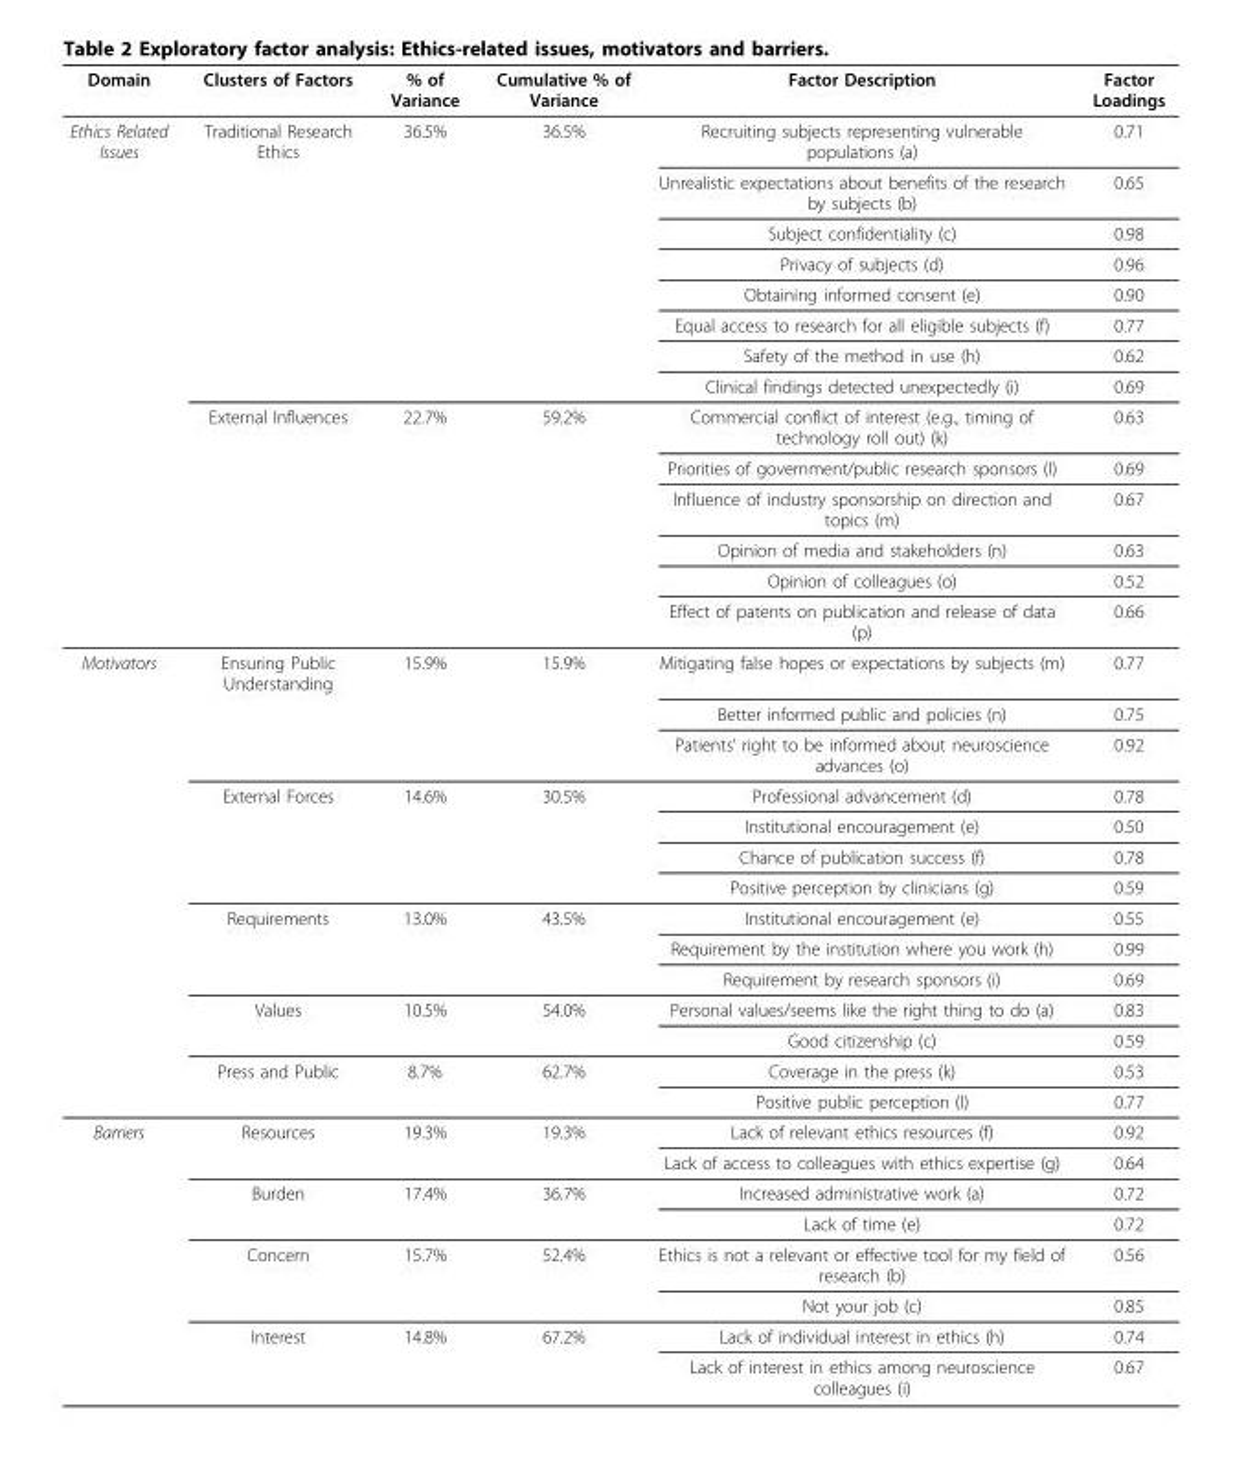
<table><thead><tr><td>Domain</td><td>Clusters of Factors</td><td>% of Variance</td><td>Cumulative % of Variance</td><td>Factor Description</td><td>Factor Loadings</td></tr></thead><tbody><tr><td rowspan="14">Ethics Related Issues</td><td>Traditional Research Ethics</td><td>36.5%</td><td>36.5%</td><td>Recruiting subjects representing vulnerable populations (a)</td><td>0.71</td></tr><tr><td></td><td></td><td></td><td>Unrealistic expectations about benefits of the research by subjects (b)</td><td>0.65</td></tr><tr><td></td><td></td><td></td><td>Subject confidentiality (c)</td><td>0.98</td></tr><tr><td></td><td></td><td></td><td>Privacy of subjects (d)</td><td>0.96</td></tr><tr><td></td><td></td><td></td><td>Obtaining informed consent (e)</td><td>0.90</td></tr><tr><td></td><td></td><td></td><td>Equal access to research for all eligible subjects (f)</td><td>0.77</td></tr><tr><td></td><td></td><td></td><td>Safety of the method in use (h)</td><td>0.62</td></tr><tr><td></td><td></td><td></td><td>Clinical findings detected unexpectedly (i)</td><td>0.69</td></tr><tr><td>External Influences</td><td>22.7%</td><td>59.2%</td><td>Commercial conflict of interest (e.g., timing of technology roll out) (k)</td><td>0.63</td></tr><tr><td></td><td></td><td></td><td>Priorities of government/public research sponsors (l)</td><td>0.69</td></tr><tr><td></td><td></td><td></td><td>Influence of industry sponsorship on direction and topics (m)</td><td>0.67</td></tr><tr><td></td><td></td><td></td><td>Opinion of media and stakeholders (n)</td><td>0.63</td></tr><tr><td></td><td></td><td></td><td>Opinion of colleagues (o)</td><td>0.52</td></tr><tr><td></td><td></td><td></td><td>Effect of patents on publication and release of data (p)</td><td>0.66</td></tr><tr><td rowspan="14">Motivators</td><td>Ensuring Public Understanding</td><td>15.9%</td><td>15.9%</td><td>Mitigating false hopes or expectations by subjects (m)</td><td>0.77</td></tr><tr><td></td><td></td><td></td><td>Better informed public and policies (n)</td><td>0.75</td></tr><tr><td></td><td></td><td></td><td>Patients’ right to be informed about neuroscience advances (o)</td><td>0.92</td></tr><tr><td>External Forces</td><td>14.6%</td><td>30.5%</td><td>Professional advancement (d)</td><td>0.78</td></tr><tr><td></td><td></td><td></td><td>Institutional encouragement (e)</td><td>0.50</td></tr><tr><td></td><td></td><td></td><td>Chance of publication success (f)</td><td>0.78</td></tr><tr><td></td><td></td><td></td><td>Positive perception by clinicians (g)</td><td>0.59</td></tr><tr><td>Requirements</td><td>13.0%</td><td>43.5%</td><td>Institutional encouragement (e)</td><td>0.55</td></tr><tr><td></td><td></td><td></td><td>Requirement by the institution where you work (h)</td><td>0.99</td></tr><tr><td></td><td></td><td></td><td>Requirement by research sponsors (i)</td><td>0.69</td></tr><tr><td>Values</td><td>10.5%</td><td>54.0%</td><td>Personal values/seems like the right thing to do (a)</td><td>0.83</td></tr><tr><td></td><td></td><td></td><td>Good citizenship (c)</td><td>0.59</td></tr><tr><td>Press and Public</td><td>8.7%</td><td>62.7%</td><td>Coverage in the press (k)</td><td>0.53</td></tr><tr><td></td><td></td><td></td><td>Positive public perception (l)</td><td>0.77</td></tr><tr><td rowspan="8">Barriers</td><td>Resources</td><td>19.3%</td><td>19.3%</td><td>Lack of relevant ethics resources (f)</td><td>0.92</td></tr><tr><td></td><td></td><td></td><td>Lack of access to colleagues with ethics expertise (g)</td><td>0.64</td></tr><tr><td>Burden</td><td>17.4%</td><td>36.7%</td><td>Increased administrative work (a)</td><td>0.72</td></tr><tr><td></td><td></td><td></td><td>Lack of time (e)</td><td>0.72</td></tr><tr><td>Concern</td><td>15.7%</td><td>52.4%</td><td>Ethics is not a relevant or effective tool for my field of research (b)</td><td>0.56</td></tr><tr><td></td><td></td><td></td><td>Not your job (c)</td><td>0.85</td></tr><tr><td>Interest</td><td>14.8%</td><td>67.2%</td><td>Lack of individual interest in ethics (h)</td><td>0.74</td></tr><tr><td></td><td></td><td></td><td>Lack of interest in ethics among neuroscience colleagues (i)</td><td>0.67</td></tr></tbody></table>